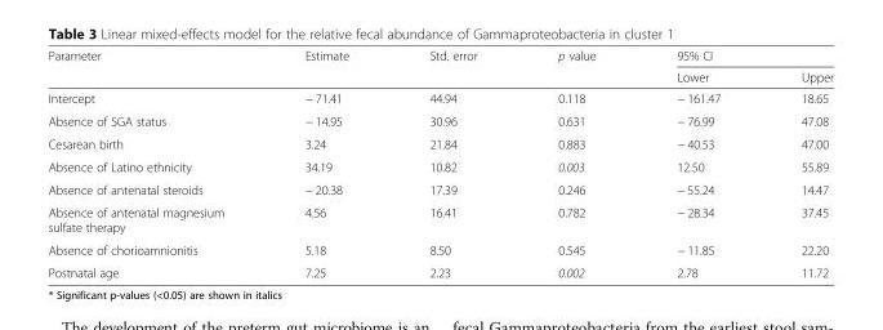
<table><thead><tr><td rowspan="2">Parameter</td><td rowspan="2">Estimate</td><td rowspan="2">Std. error</td><td rowspan="2">p value</td><td colspan="2">95% CI</td></tr><tr><td>Lower</td><td>Upper</td></tr></thead><tbody><tr><td>Intercept</td><td>− 71.41</td><td>44.94</td><td>0.118</td><td>− 161.47</td><td>18.65</td></tr><tr><td>Absence of SGA status</td><td>− 14.95</td><td>30.96</td><td>0.631</td><td>− 76.99</td><td>47.08</td></tr><tr><td>Cesarean birth</td><td>3.24</td><td>21.84</td><td>0.883</td><td>− 40.53</td><td>47.00</td></tr><tr><td>Absence of Latino ethnicity</td><td>34.19</td><td>10.82</td><td>0.003</td><td>12.50</td><td>55.89</td></tr><tr><td>Absence of antenatal steroids</td><td>− 20.38</td><td>17.39</td><td>0.246</td><td>− 55.24</td><td>14.47</td></tr><tr><td>Absence of antenatal magnesium sulfate therapy</td><td>4.56</td><td>16.41</td><td>0.782</td><td>− 28.34</td><td>37.45</td></tr><tr><td>Absence of chorioamnionitis</td><td>5.18</td><td>8.50</td><td>0.545</td><td>− 11.85</td><td>22.20</td></tr><tr><td>Postnatal age</td><td>7.25</td><td>2.23</td><td>0.002</td><td>2.78</td><td>11.72</td></tr></tbody></table>